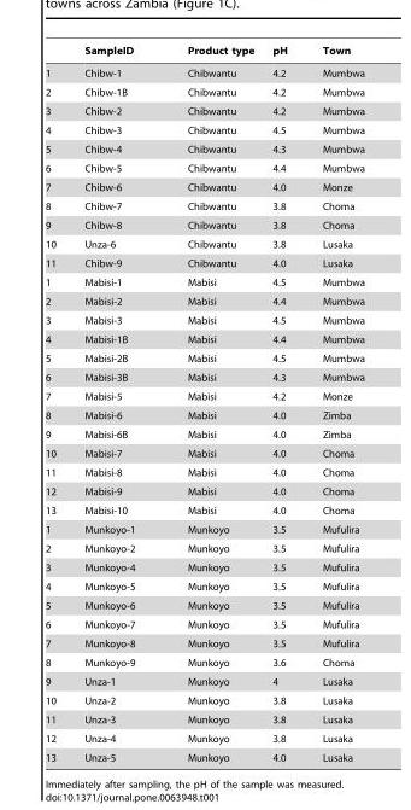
<table><thead><tr><td></td><td>SampleID</td><td>Product type</td><td>pH</td><td>Town</td></tr></thead><tbody><tr><td>1</td><td>Chibw-1</td><td>Chibwantu</td><td>4.2</td><td>Mumbwa</td></tr><tr><td>2</td><td>Chibw-1B</td><td>Chibwantu</td><td>4.2</td><td>Mumbwa</td></tr><tr><td>3</td><td>Chibw-2</td><td>Chibwantu</td><td>4.2</td><td>Mumbwa</td></tr><tr><td>4</td><td>Chibw-3</td><td>Chibwantu</td><td>4.5</td><td>Mumbwa</td></tr><tr><td>5</td><td>Chibw-4</td><td>Chibwantu</td><td>4.3</td><td>Mumbwa</td></tr><tr><td>6</td><td>Chibw-5</td><td>Chibwantu</td><td>4.4</td><td>Mumbwa</td></tr><tr><td>7</td><td>Chibw-6</td><td>Chibwantu</td><td>4.0</td><td>Monze</td></tr><tr><td>8</td><td>Chibw-7</td><td>Chibwantu</td><td>3.8</td><td>Choma</td></tr><tr><td>9</td><td>Chibw-8</td><td>Chibwantu</td><td>3.8</td><td>Choma</td></tr><tr><td>10</td><td>Unza-6</td><td>Chibwantu</td><td>3.8</td><td>Lusaka</td></tr><tr><td>11</td><td>Chibw-9</td><td>Chibwantu</td><td>4.0</td><td>Lusaka</td></tr><tr><td>1</td><td>Mabisi-1</td><td>Mabisi</td><td>4.5</td><td>Mumbwa</td></tr><tr><td>2</td><td>Mabisi-2</td><td>Mabisi</td><td>4.4</td><td>Mumbwa</td></tr><tr><td>3</td><td>Mabisi-3</td><td>Mabisi</td><td>4.5</td><td>Mumbwa</td></tr><tr><td>4</td><td>Mabisi-1B</td><td>Mabisi</td><td>4.4</td><td>Mumbwa</td></tr><tr><td>5</td><td>Mabisi-2B</td><td>Mabisi</td><td>4.5</td><td>Mumbwa</td></tr><tr><td>6</td><td>Mabisi-3B</td><td>Mabisi</td><td>4.3</td><td>Mumbwa</td></tr><tr><td>7</td><td>Mabisi-5</td><td>Mabisi</td><td>4.2</td><td>Monze</td></tr><tr><td>8</td><td>Mabisi-6</td><td>Mabisi</td><td>4.0</td><td>Zimba</td></tr><tr><td>9</td><td>Mabisi-6B</td><td>Mabisi</td><td>4.0</td><td>Zimba</td></tr><tr><td>10</td><td>Mabisi-7</td><td>Mabisi</td><td>4.0</td><td>Choma</td></tr><tr><td>11</td><td>Mabisi-8</td><td>Mabisi</td><td>4.0</td><td>Choma</td></tr><tr><td>12</td><td>Mabisi-9</td><td>Mabisi</td><td>4.0</td><td>Choma</td></tr><tr><td>13</td><td>Mabisi-10</td><td>Mabisi</td><td>4.0</td><td>Choma</td></tr><tr><td>1</td><td>Munkoyo-1</td><td>Munkoyo</td><td>3.5</td><td>Mufulira</td></tr><tr><td>2</td><td>Munkoyo-2</td><td>Munkoyo</td><td>3.5</td><td>Mufulira</td></tr><tr><td>3</td><td>Munkoyo-4</td><td>Munkoyo</td><td>3.5</td><td>Mufulira</td></tr><tr><td>4</td><td>Munkoyo-5</td><td>Munkoyo</td><td>3.5</td><td>Mufulira</td></tr><tr><td>5</td><td>Munkoyo-6</td><td>Munkoyo</td><td>3.5</td><td>Mufulira</td></tr><tr><td>6</td><td>Munkoyo-7</td><td>Munkoyo</td><td>3.5</td><td>Mufulira</td></tr><tr><td>7</td><td>Munkoyo-8</td><td>Munkoyo</td><td>3.5</td><td>Mufulira</td></tr><tr><td>8</td><td>Munkoyo-9</td><td>Munkoyo</td><td>3.6</td><td>Choma</td></tr><tr><td>9</td><td>Unza-1</td><td>Munkoyo</td><td>4</td><td>Lusaka</td></tr><tr><td>10</td><td>Unza-2</td><td>Munkoyo</td><td>3.8</td><td>Lusaka</td></tr><tr><td>11</td><td>Unza-3</td><td>Munkoyo</td><td>3.8</td><td>Lusaka</td></tr><tr><td>12</td><td>Unza-4</td><td>Munkoyo</td><td>3.8</td><td>Lusaka</td></tr><tr><td>13</td><td>Unza-5</td><td>Munkoyo</td><td>4.0</td><td>Lusaka</td></tr></tbody></table>